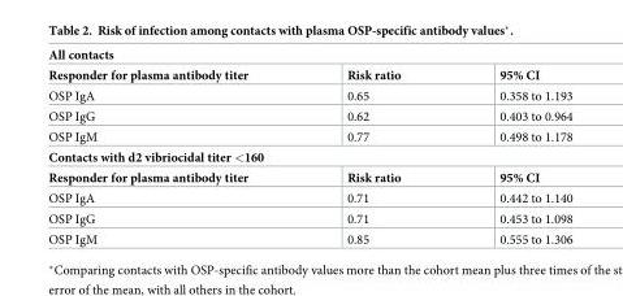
<table><tbody><tr><td colspan="3">All contacts</td></tr><tr><td>Responder for plasma antibody titer</td><td>Risk ratio</td><td>95% CI</td></tr><tr><td>OSP IgA</td><td>0.65</td><td>0.358 to 1.193</td></tr><tr><td>OSP IgG</td><td>0.62</td><td>0.403 to 0.964</td></tr><tr><td>OSP IgM</td><td>0.77</td><td>0.498 to 1.178</td></tr><tr><td colspan="3">Contacts with d2 vibriocidal titer &lt;160</td></tr><tr><td>Responder for plasma antibody titer</td><td>Risk ratio</td><td>95% CI</td></tr><tr><td>OSP IgA</td><td>0.71</td><td>0.442 to 1.140</td></tr><tr><td>OSP IgG</td><td>0.71</td><td>0.453 to 1.098</td></tr><tr><td>OSP IgM</td><td>0.85</td><td>0.555 to 1.306</td></tr></tbody></table>